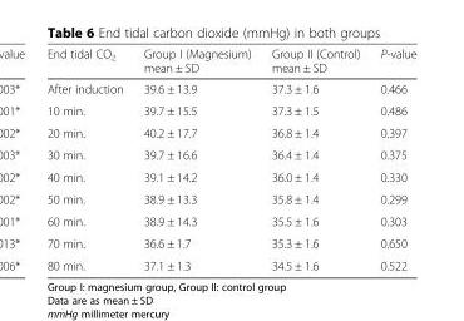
<table><thead><tr><td>End tidal CO<sub>2</sub></td><td>Group I (Magnesium) mean ± SD</td><td>Group II (Control) mean ± SD</td><td>P-value</td></tr></thead><tbody><tr><td>After induction</td><td>39.6 ± 13.9</td><td>37.3 ± 1.6</td><td>0.466</td></tr><tr><td>10 min.</td><td>39.7 ± 15.5</td><td>37.3 ± 1.5</td><td>0.486</td></tr><tr><td>20 min.</td><td>40.2 ± 17.7</td><td>36.8 ± 1.4</td><td>0.397</td></tr><tr><td>30 min.</td><td>39.7 ± 16.6</td><td>36.4 ± 1.4</td><td>0.375</td></tr><tr><td>40 min.</td><td>39.1 ± 14.2</td><td>36.0 ± 1.4</td><td>0.330</td></tr><tr><td>50 min.</td><td>38.9 ± 13.3</td><td>35.8 ± 1.4</td><td>0.299</td></tr><tr><td>60 min.</td><td>38.9 ± 14.3</td><td>35.5 ± 1.6</td><td>0.303</td></tr><tr><td>70 min.</td><td>36.6 ± 1.7</td><td>35.3 ± 1.6</td><td>0.650</td></tr><tr><td>80 min.</td><td>37.1 ± 1.3</td><td>34.5 ± 1.6</td><td>0.522</td></tr></tbody></table>